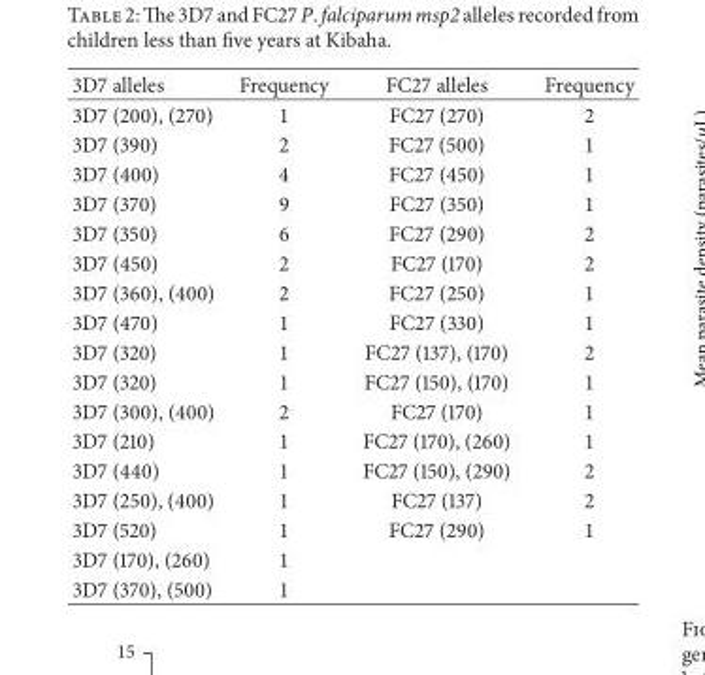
<table><thead><tr><td>3D7 alleles</td><td>Frequency</td><td>FC27 alleles</td><td>Frequency</td></tr></thead><tbody><tr><td>3D7 (200), (270)</td><td>1</td><td>FC27 (270)</td><td>2</td></tr><tr><td>3D7 (390)</td><td>2</td><td>FC27 (500)</td><td>1</td></tr><tr><td>3D7 (400)</td><td>4</td><td>FC27 (450)</td><td>1</td></tr><tr><td>3D7 (370)</td><td>9</td><td>FC27 (350)</td><td>1</td></tr><tr><td>3D7 (350)</td><td>6</td><td>FC27 (290)</td><td>2</td></tr><tr><td>3D7 (450)</td><td>2</td><td>FC27 (170)</td><td>2</td></tr><tr><td>3D7 (360), (400)</td><td>2</td><td>FC27 (250)</td><td>1</td></tr><tr><td>3D7 (470)</td><td>1</td><td>FC27 (330)</td><td>1</td></tr><tr><td>3D7 (320)</td><td>1</td><td>FC27 (137), (170)</td><td>2</td></tr><tr><td>3D7 (320)</td><td>1</td><td>FC27 (150), (170)</td><td>1</td></tr><tr><td>3D7 (300), (400)</td><td>2</td><td>FC27 (170)</td><td>1</td></tr><tr><td>3D7 (210)</td><td>1</td><td>FC27 (170), (260)</td><td>1</td></tr><tr><td>3D7 (440)</td><td>1</td><td>FC27 (150), (290)</td><td>2</td></tr><tr><td>3D7 (250), (400)</td><td>1</td><td>FC27 (137)</td><td>2</td></tr><tr><td>3D7 (520)</td><td>1</td><td>FC27 (290)</td><td>1</td></tr><tr><td>3D7 (170), (260)</td><td>1</td><td></td><td></td></tr><tr><td>3D7 (370), (500)</td><td>1</td><td></td><td></td></tr></tbody></table>